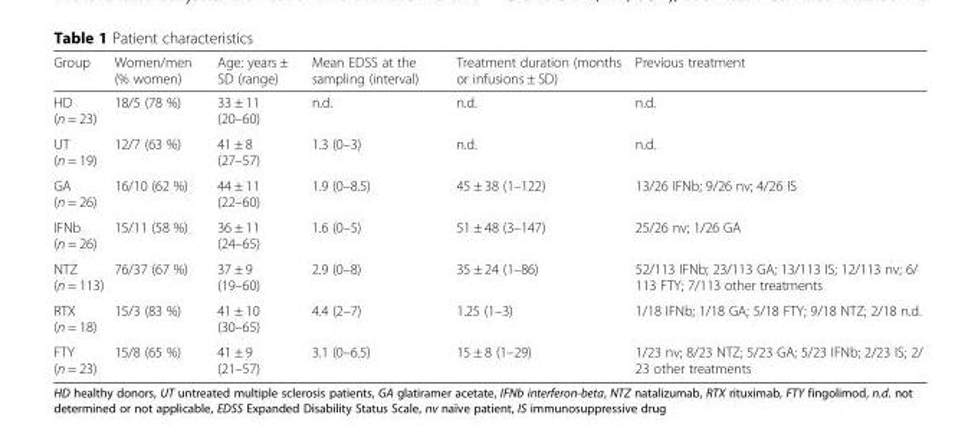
<table><thead><tr><td>Group</td><td>Women/men (% women)</td><td>Age: years ± SD (range)</td><td>Mean EDSS at the sampling (interval)</td><td>Treatment duration (months or infusions ± SD)</td><td>Previous treatment</td></tr></thead><tbody><tr><td>HD (n = 23)</td><td>18/5 (78 %)</td><td>33 ± 11 (20–60)</td><td>n.d.</td><td>n.d.</td><td>n.d.</td></tr><tr><td>UT (n = 19)</td><td>12/7 (63 %)</td><td>41 ± 8 (27–57)</td><td>1.3 (0–3)</td><td>n.d.</td><td>n.d.</td></tr><tr><td>GA (n = 26)</td><td>16/10 (62 %)</td><td>44 ± 11 (22–60)</td><td>1.9 (0–8.5)</td><td>45 ± 38 (1–122)</td><td>13/26 IFNb; 9/26 nv; 4/26 IS</td></tr><tr><td>IFNb (n = 26)</td><td>15/11 (58 %)</td><td>36 ± 11 (24–65)</td><td>1.6 (0–5)</td><td>51 ± 48 (3–147)</td><td>25/26 nv; 1/26 GA</td></tr><tr><td>NTZ (n = 113)</td><td>76/37 (67 %)</td><td>37 ± 9 (19–60)</td><td>2.9 (0–8)</td><td>35 ± 24 (1–86)</td><td>52/113 IFNb; 23/113 GA; 13/113 IS; 12/113 nv; 6/ 113 FTY; 7/113 other treatments</td></tr><tr><td>RTX (n = 18)</td><td>15/3 (83 %)</td><td>41 ± 10 (30–65)</td><td>4.4 (2–7)</td><td>1.25 (1–3)</td><td>1/18 IFNb; 1/18 GA; 5/18 FTY; 9/18 NTZ; 2/18 n.d.</td></tr><tr><td>FTY (n = 23)</td><td>15/8 (65 %)</td><td>41 ± 9 (21–57)</td><td>3.1 (0–6.5)</td><td>15 ± 8 (1–29)</td><td>1/23 nv; 8/23 NTZ; 5/23 GA; 5/23 IFNb; 2/23 IS; 2/ 23 other treatments</td></tr></tbody></table>